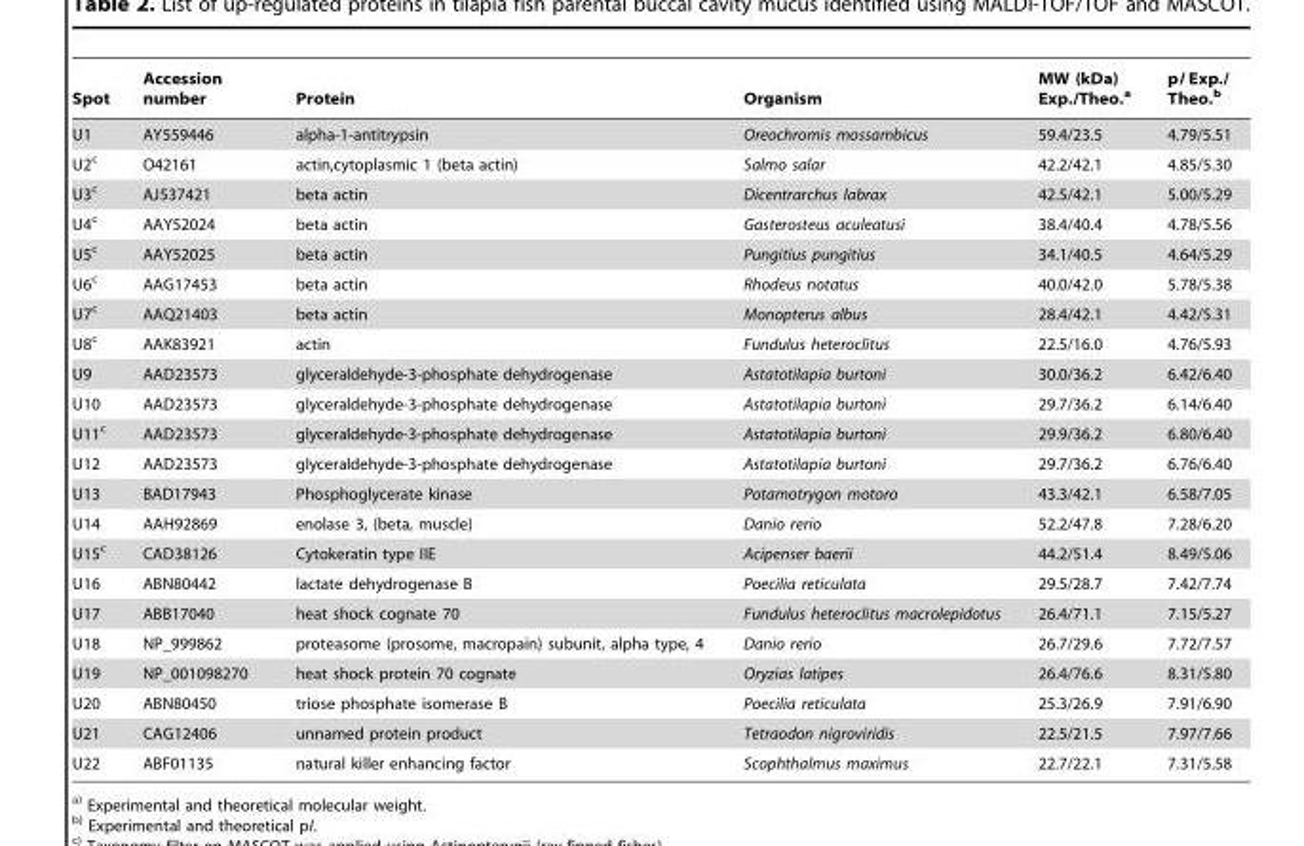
<table><thead><tr><td>Spot</td><td>Accession number</td><td>Protein</td><td>Organism</td><td>MW (kDa) Exp./Theo.<sup>a</sup></td><td>pI Exp./ Theo.<sup>b</sup></td></tr></thead><tbody><tr><td>U1</td><td>AY559446</td><td>alpha-1-antitrypsin</td><td>Oreochromis mossambicus</td><td>59.4/23.5</td><td>4.79/5.51</td></tr><tr><td>U2<sup>c</sup></td><td>O42161</td><td>actin,cytoplasmic 1 (beta actin)</td><td>Salmo salar</td><td>42.2/42.1</td><td>4.85/5.30</td></tr><tr><td>U3<sup>c</sup></td><td>AJ537421</td><td>beta actin</td><td>Dicentrarchus labrax</td><td>42.5/42.1</td><td>5.00/5.29</td></tr><tr><td>U4<sup>c</sup></td><td>AAY52024</td><td>beta actin</td><td>Gasterosteus aculeatusi</td><td>38.4/40.4</td><td>4.78/5.56</td></tr><tr><td>U5<sup>c</sup></td><td>AAY52025</td><td>beta actin</td><td>Pungitius pungitius</td><td>34.1/40.5</td><td>4.64/5.29</td></tr><tr><td>U6<sup>c</sup></td><td>AAG17453</td><td>beta actin</td><td>Rhodeus notatus</td><td>40.0/42.0</td><td>5.78/5.38</td></tr><tr><td>U7<sup>c</sup></td><td>AAQ21403</td><td>beta actin</td><td>Monopterus albus</td><td>28.4/42.1</td><td>4.42/5.31</td></tr><tr><td>U8<sup>c</sup></td><td>AAK83921</td><td>actin</td><td>Fundulus heteroclitus</td><td>22.5/16.0</td><td>4.76/5.93</td></tr><tr><td>U9</td><td>AAD23573</td><td>glyceraldehyde-3-phosphate dehydrogenase</td><td>Astatotilapia burtoni</td><td>30.0/36.2</td><td>6.42/6.40</td></tr><tr><td>U10</td><td>AAD23573</td><td>glyceraldehyde-3-phosphate dehydrogenase</td><td>Astatotilapia burtoni</td><td>29.7/36.2</td><td>6.14/6.40</td></tr><tr><td>U11<sup>c</sup></td><td>AAD23573</td><td>glyceraldehyde-3-phosphate dehydrogenase</td><td>Astatotilapia burtoni</td><td>29.9/36.2</td><td>6.80/6.40</td></tr><tr><td>U12</td><td>AAD23573</td><td>glyceraldehyde-3-phosphate dehydrogenase</td><td>Astatotilapia burtoni</td><td>29.7/36.2</td><td>6.76/6.40</td></tr><tr><td>U13</td><td>BAD17943</td><td>Phosphoglycerate kinase</td><td>Potamotrygon motoro</td><td>43.3/42.1</td><td>6.58/7.05</td></tr><tr><td>U14</td><td>AAH92869</td><td>enolase 3, (beta, muscle)</td><td>Danio rerio</td><td>52.2/47.8</td><td>7.28/6.20</td></tr><tr><td>U15<sup>c</sup></td><td>CAD38126</td><td>Cytokeratin type IIE</td><td>Acipenser baerii</td><td>44.2/51.4</td><td>8.49/5.06</td></tr><tr><td>U16</td><td>ABN80442</td><td>lactate dehydrogenase B</td><td>Poecilia reticulata</td><td>29.5/28.7</td><td>7.42/7.74</td></tr><tr><td>U17</td><td>ABB17040</td><td>heat shock cognate 70</td><td>Fundulus heteroclitus macrolepidotus</td><td>26.4/71.1</td><td>7.15/5.27</td></tr><tr><td>U18</td><td>NP_999862</td><td>proteasome (prosome, macropain) subunit, alpha type, 4</td><td>Danio rerio</td><td>26.7/29.6</td><td>7.72/7.57</td></tr><tr><td>U19</td><td>NP_001098270</td><td>heat shock protein 70 cognate</td><td>Oryzias latipes</td><td>26.4/76.6</td><td>8.31/5.80</td></tr><tr><td>U20</td><td>ABN80450</td><td>triose phosphate isomerase B</td><td>Poecilia reticulata</td><td>25.3/26.9</td><td>7.91/6.90</td></tr><tr><td>U21</td><td>CAG12406</td><td>unnamed protein product</td><td>Tetraodon nigroviridis</td><td>22.5/21.5</td><td>7.97/7.66</td></tr><tr><td>U22</td><td>ABF01135</td><td>natural killer enhancing factor</td><td>Scophthalmus maximus</td><td>22.7/22.1</td><td>7.31/5.58</td></tr></tbody></table>